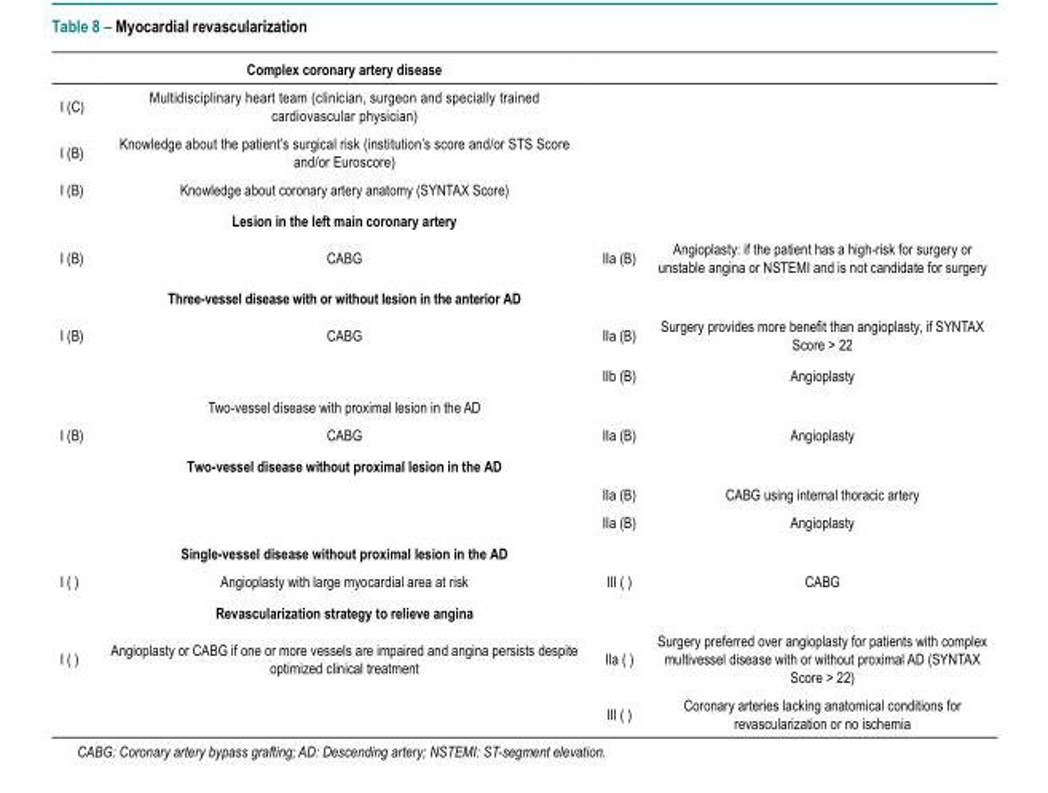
<table><thead><tr><td></td><td>Complex coronary artery disease</td><td></td><td></td></tr></thead><tbody><tr><td>I (C)</td><td>Multidisciplinary heart team (clinician, surgeon and specially trained cardiovascular physician)</td><td></td><td></td></tr><tr><td>I (B)</td><td>Knowledge about the patient’s surgical risk (institution’s score and/or STS Score and/or Euroscore)</td><td></td><td></td></tr><tr><td rowspan="2">I (B)</td><td>Knowledge about coronary artery anatomy (SYNTAX Score)</td><td></td><td></td></tr><tr><td>Lesion in the left main coronary artery</td><td></td><td></td></tr><tr><td rowspan="2">I (B)</td><td>CABG</td><td>IIa (B)</td><td>Angioplasty: if the patient has a high-risk for surgery or unstable angina or NSTEMI and is not candidate for surgery</td></tr><tr><td>Three-vessel disease with or without lesion in the anterior AD</td><td></td><td></td></tr><tr><td rowspan="3">I (B)</td><td>CABG</td><td>IIa (B)</td><td>Surgery provides more benefit than angioplasty, if SYNTAX Score &gt; 22</td></tr><tr><td></td><td>IIb (B)</td><td>Angioplasty</td></tr><tr><td>Two-vessel disease with proximal lesion in the AD</td><td></td><td></td></tr><tr><td rowspan="5">I (B)</td><td>CABG</td><td>IIa (B)</td><td>Angioplasty</td></tr><tr><td>Two-vessel disease without proximal lesion in the AD</td><td></td><td></td></tr><tr><td></td><td>IIa (B)</td><td>CABG using internal thoracic artery</td></tr><tr><td></td><td>IIa (B)</td><td>Angioplasty</td></tr><tr><td>Single-vessel disease without proximal lesion in the AD</td><td></td><td></td></tr><tr><td rowspan="2">I ( )</td><td>Angioplasty with large myocardial area at risk</td><td>III ( )</td><td>CABG</td></tr><tr><td>Revascularization strategy to relieve angina</td><td></td><td></td></tr><tr><td rowspan="2">I ( )</td><td>Angioplasty or CABG if one or more vessels are impaired and angina persists despite optimized clinical treatment</td><td>IIa ( )</td><td>Surgery preferred over angioplasty for patients with complex multivessel disease with or without proximal AD (SYNTAX Score &gt; 22)</td></tr><tr><td></td><td>III ( )</td><td>Coronary arteries lacking anatomical conditions for revascularization or no ischemia</td></tr></tbody></table>